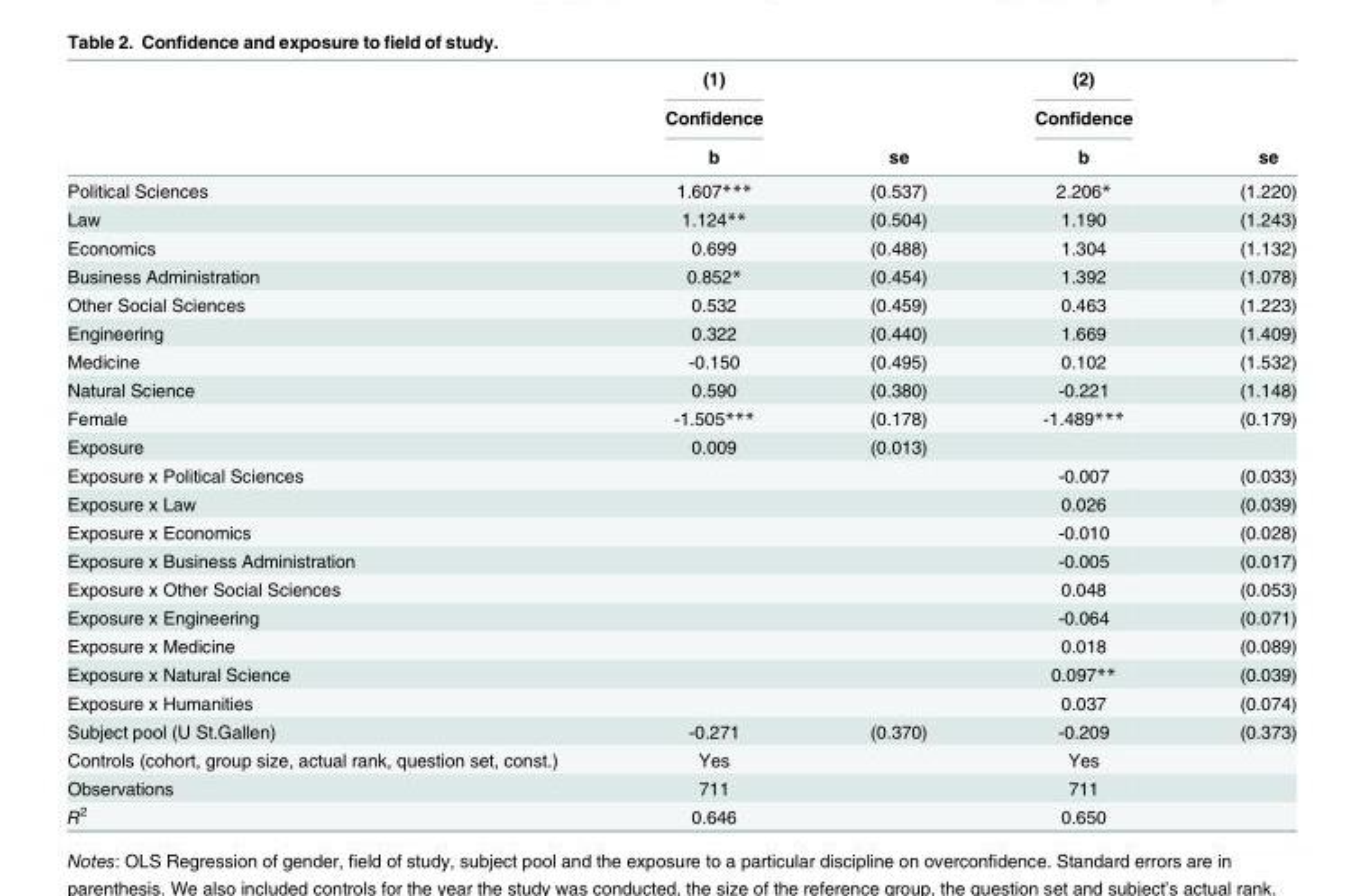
<table><thead><tr><td rowspan="3"></td><td rowspan="3">(1) Confidence b</td><td rowspan="3">se</td><td rowspan="3">(2) Confidence b</td><td rowspan="3">se</td></tr><tr></tr><tr></tr></thead><tbody><tr><td>Political Sciences</td><td>1.607***</td><td>(0.537)</td><td>2.206*</td><td>(1.220)</td></tr><tr><td>Law</td><td>1.124**</td><td>(0.504)</td><td>1.190</td><td>(1.243)</td></tr><tr><td>Economics</td><td>0.699</td><td>(0.488)</td><td>1.304</td><td>(1.132)</td></tr><tr><td>Business Administration</td><td>0.852*</td><td>(0.454)</td><td>1.392</td><td>(1.078)</td></tr><tr><td>Other Social Sciences</td><td>0.532</td><td>(0.459)</td><td>0.463</td><td>(1.223)</td></tr><tr><td>Engineering</td><td>0.322</td><td>(0.440)</td><td>1.669</td><td>(1.409)</td></tr><tr><td>Medicine</td><td>-0.150</td><td>(0.495)</td><td>0.102</td><td>(1.532)</td></tr><tr><td>Natural Science</td><td>0.590</td><td>(0.380)</td><td>-0.221</td><td>(1.148)</td></tr><tr><td>Female</td><td>-1.505***</td><td>(0.178)</td><td>-1.489***</td><td>(0.179)</td></tr><tr><td>Exposure</td><td>0.009</td><td>(0.013)</td><td></td><td></td></tr><tr><td>Exposure x Political Sciences</td><td></td><td></td><td>-0.007</td><td>(0.033)</td></tr><tr><td>Exposure x Law</td><td></td><td></td><td>0.026</td><td>(0.039)</td></tr><tr><td>Exposure x Economics</td><td></td><td></td><td>-0.010</td><td>(0.028)</td></tr><tr><td>Exposure x Business Administration</td><td></td><td></td><td>-0.005</td><td>(0.017)</td></tr><tr><td>Exposure x Other Social Sciences</td><td></td><td></td><td>0.048</td><td>(0.053)</td></tr><tr><td>Exposure x Engineering</td><td></td><td></td><td>-0.064</td><td>(0.071)</td></tr><tr><td>Exposure x Medicine</td><td></td><td></td><td>0.018</td><td>(0.089)</td></tr><tr><td>Exposure x Natural Science</td><td></td><td></td><td>0.097**</td><td>(0.039)</td></tr><tr><td>Exposure x Humanities</td><td></td><td></td><td>0.037</td><td>(0.074)</td></tr><tr><td>Subject pool (U St.Gallen)</td><td>-0.271</td><td>(0.370)</td><td>-0.209</td><td>(0.373)</td></tr><tr><td>Controls (cohort, group size, actual rank, question set, const.)</td><td>Yes</td><td></td><td>Yes</td><td></td></tr><tr><td>Observations</td><td>711</td><td></td><td>711</td><td></td></tr><tr><td>R<sup>2</sup></td><td>0.646</td><td></td><td>0.650</td><td></td></tr></tbody></table>